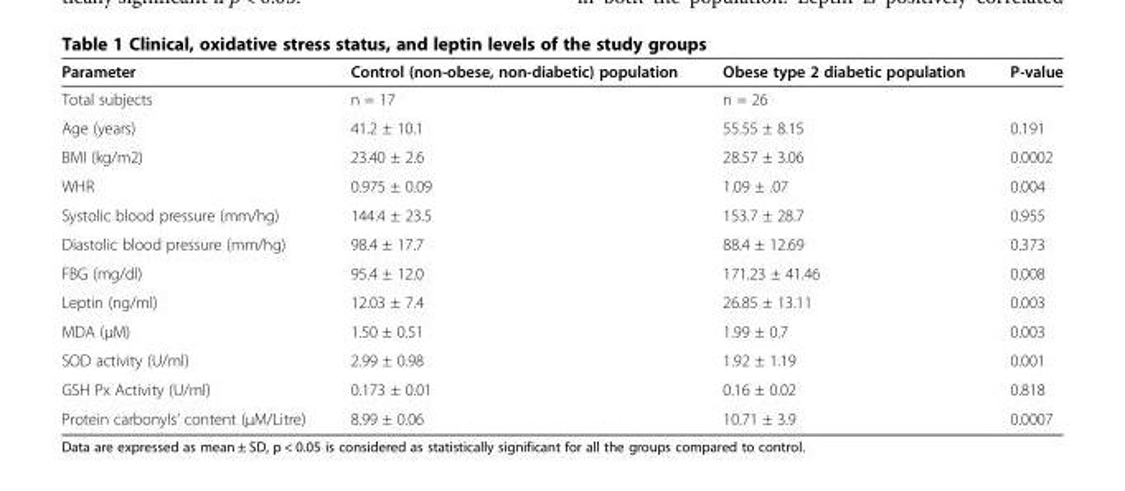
<table><thead><tr><td>Parameter</td><td>Control (non-obese, non-diabetic) population</td><td>Obese type 2 diabetic population</td><td>P-value</td></tr></thead><tbody><tr><td>Total subjects</td><td>n = 17</td><td>n = 26</td><td></td></tr><tr><td>Age (years)</td><td>41.2 ± 10.1</td><td>55.55 ± 8.15</td><td>0.191</td></tr><tr><td>BMI (kg/m2)</td><td>23.40 ± 2.6</td><td>28.57 ± 3.06</td><td>0.0002</td></tr><tr><td>WHR</td><td>0.975 ± 0.09</td><td>1.09 ± .07</td><td>0.004</td></tr><tr><td>Systolic blood pressure (mm/hg)</td><td>144.4 ± 23.5</td><td>153.7 ± 28.7</td><td>0.955</td></tr><tr><td>Diastolic blood pressure (mm/hg)</td><td>98.4 ± 17.7</td><td>88.4 ± 12.69</td><td>0.373</td></tr><tr><td>FBG (mg/dl)</td><td>95.4 ± 12.0</td><td>171.23 ± 41.46</td><td>0.008</td></tr><tr><td>Leptin (ng/ml)</td><td>12.03 ± 7.4</td><td>26.85 ± 13.11</td><td>0.003</td></tr><tr><td>MDA (μM)</td><td>1.50 ± 0.51</td><td>1.99 ± 0.7</td><td>0.003</td></tr><tr><td>SOD activity (U/ml)</td><td>2.99 ± 0.98</td><td>1.92 ± 1.19</td><td>0.001</td></tr><tr><td>GSH Px Activity (U/ml)</td><td>0.173 ± 0.01</td><td>0.16 ± 0.02</td><td>0.818</td></tr><tr><td>Protein carbonyls’ content (μM/Litre)</td><td>8.99 ± 0.06</td><td>10.71 ± 3.9</td><td>0.0007</td></tr></tbody></table>